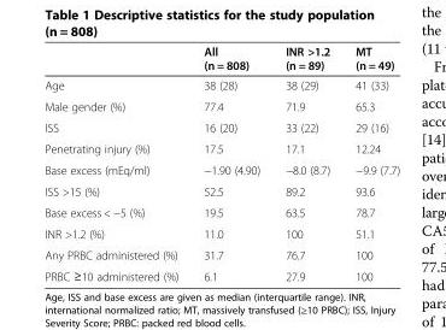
<table><thead><tr><td></td><td>All (n = 808)</td><td>INR &gt;1.2 (n = 89)</td><td>MT (n = 49)</td></tr></thead><tbody><tr><td>Age</td><td>38 (28)</td><td>38 (29)</td><td>41 (33)</td></tr><tr><td>Male gender (%)</td><td>77.4</td><td>71.9</td><td>65.3</td></tr><tr><td>ISS</td><td>16 (20)</td><td>33 (22)</td><td>29 (16)</td></tr><tr><td>Penetrating injury (%)</td><td>17.5</td><td>17.1</td><td>12.24</td></tr><tr><td>Base excess (mEq/ml)</td><td>−1.90 (4.90)</td><td>−8.0 (8.7)</td><td>−9.9 (7.7)</td></tr><tr><td>ISS &gt;15 (%)</td><td>52.5</td><td>89.2</td><td>93.6</td></tr><tr><td>Base excess &lt; −5 (%)</td><td>19.5</td><td>63.5</td><td>78.7</td></tr><tr><td>INR &gt;1.2 (%)</td><td>11.0</td><td>100</td><td>51.1</td></tr><tr><td>Any PRBC administered (%)</td><td>31.7</td><td>76.7</td><td>100</td></tr><tr><td>PRBC ≥10 administered (%)</td><td>6.1</td><td>27.9</td><td>100</td></tr></tbody></table>